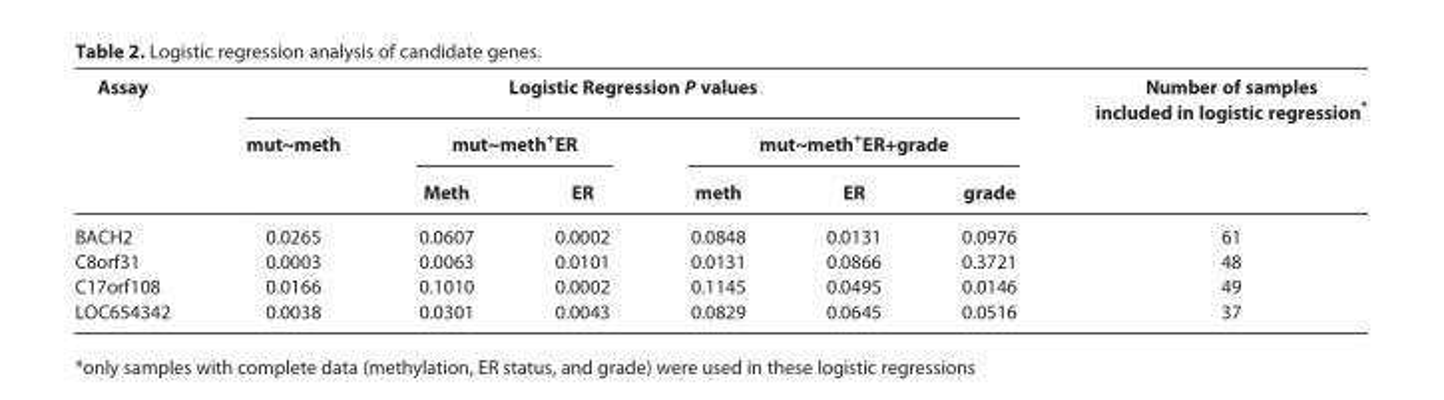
<table><thead><tr><td rowspan="3">Assay</td><td colspan="6">Logistic Regression P values</td><td rowspan="3">Number of samples included in logistic regression*</td></tr><tr><td rowspan="2">mut~meth</td><td colspan="2">mut~meth<sup>+</sup>ER</td><td colspan="3">mut~meth<sup>+</sup>ER+grade</td></tr><tr><td>Meth</td><td>ER</td><td>meth</td><td>ER</td><td>grade</td></tr></thead><tbody><tr><td>BACH2</td><td>0.0265</td><td>0.0607</td><td>0.0002</td><td>0.0848</td><td>0.0131</td><td>0.0976</td><td>61</td></tr><tr><td>C8orf31</td><td>0.0003</td><td>0.0063</td><td>0.0101</td><td>0.0131</td><td>0.0866</td><td>0.3721</td><td>48</td></tr><tr><td>C17orf108</td><td>0.0166</td><td>0.1010</td><td>0.0002</td><td>0.1145</td><td>0.0495</td><td>0.0146</td><td>49</td></tr><tr><td>LOC654342</td><td>0.0038</td><td>0.0301</td><td>0.0043</td><td>0.0829</td><td>0.0645</td><td>0.0516</td><td>37</td></tr></tbody></table>